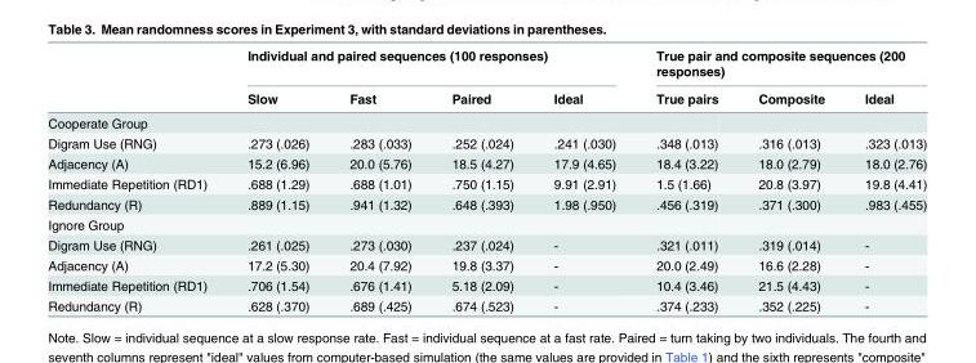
<table><thead><tr><td rowspan="2"></td><td colspan="4">Individual and paired sequences (100 responses)</td><td colspan="3">True pair and composite sequences (200 responses)</td></tr><tr><td>Slow</td><td>Fast</td><td>Paired</td><td>Ideal</td><td>True pairs</td><td>Composite</td><td>Ideal</td></tr></thead><tbody><tr><td colspan="8">Cooperate Group</td></tr><tr><td>Digram Use (RNG)</td><td>.273 (.026)</td><td>.283 (.033)</td><td>.252 (.024)</td><td>.241 (.030)</td><td>.348 (.013)</td><td>.316 (.013)</td><td>.323 (.013)</td></tr><tr><td>Adjacency (A)</td><td>15.2 (6.96)</td><td>20.0 (5.76)</td><td>18.5 (4.27)</td><td>17.9 (4.65)</td><td>18.4 (3.22)</td><td>18.0 (2.79)</td><td>18.0 (2.76)</td></tr><tr><td>Immediate Repetition (RD1)</td><td>.688 (1.29)</td><td>.688 (1.01)</td><td>.750 (1.15)</td><td>9.91 (2.91)</td><td>1.5 (1.66)</td><td>20.8 (3.97)</td><td>19.8 (4.41)</td></tr><tr><td>Redundancy (R)</td><td>.889 (1.15)</td><td>.941 (1.32)</td><td>.648 (.393)</td><td>1.98 (.950)</td><td>.456 (.319)</td><td>.371 (.300)</td><td>.983 (.455)</td></tr><tr><td colspan="8">Ignore Group</td></tr><tr><td>Digram Use (RNG)</td><td>.261 (.025)</td><td>.273 (.030)</td><td>.237 (.024)</td><td>-</td><td>.321 (.011)</td><td>.319 (.014)</td><td>-</td></tr><tr><td>Adjacency (A)</td><td>17.2 (5.30)</td><td>20.4 (7.92)</td><td>19.8 (3.37)</td><td>-</td><td>20.0 (2.49)</td><td>16.6 (2.28)</td><td>-</td></tr><tr><td>Immediate Repetition (RD1)</td><td>.706 (1.54)</td><td>.676 (1.41)</td><td>5.18 (2.09)</td><td>-</td><td>10.4 (3.46)</td><td>21.5 (4.43)</td><td>-</td></tr><tr><td>Redundancy (R)</td><td>.628 (.370)</td><td>.689 (.425)</td><td>.674 (.523)</td><td>-</td><td>.374 (.233)</td><td>.352 (.225)</td><td>-</td></tr></tbody></table>